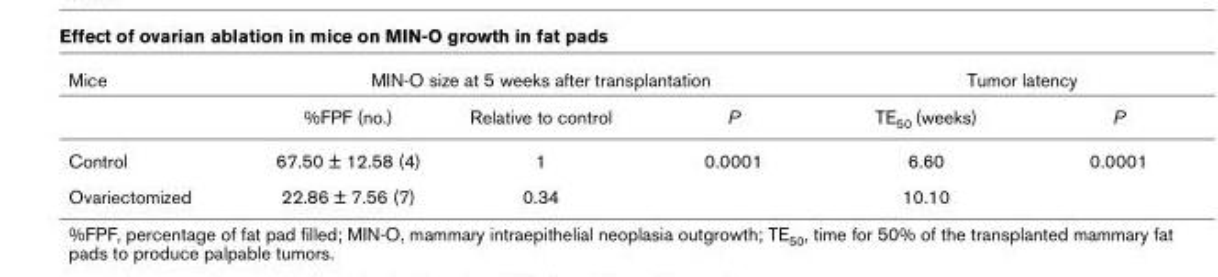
<table><thead><tr><td rowspan="2">Mice</td><td colspan="3">MIN-O size at 5 weeks after transplantation</td><td colspan="2">Tumor latency</td></tr><tr><td>%FPF (no.)</td><td>Relative to control</td><td>P</td><td>TE50 (weeks)</td><td>P</td></tr></thead><tbody><tr><td>Control</td><td>67.50 ± 12.58 (4)</td><td>1</td><td>0.0001</td><td>6.60</td><td>0.0001</td></tr><tr><td>Ovariectomized</td><td>22.86 ± 7.56 (7)</td><td>0.34</td><td></td><td>10.10</td><td></td></tr></tbody></table>